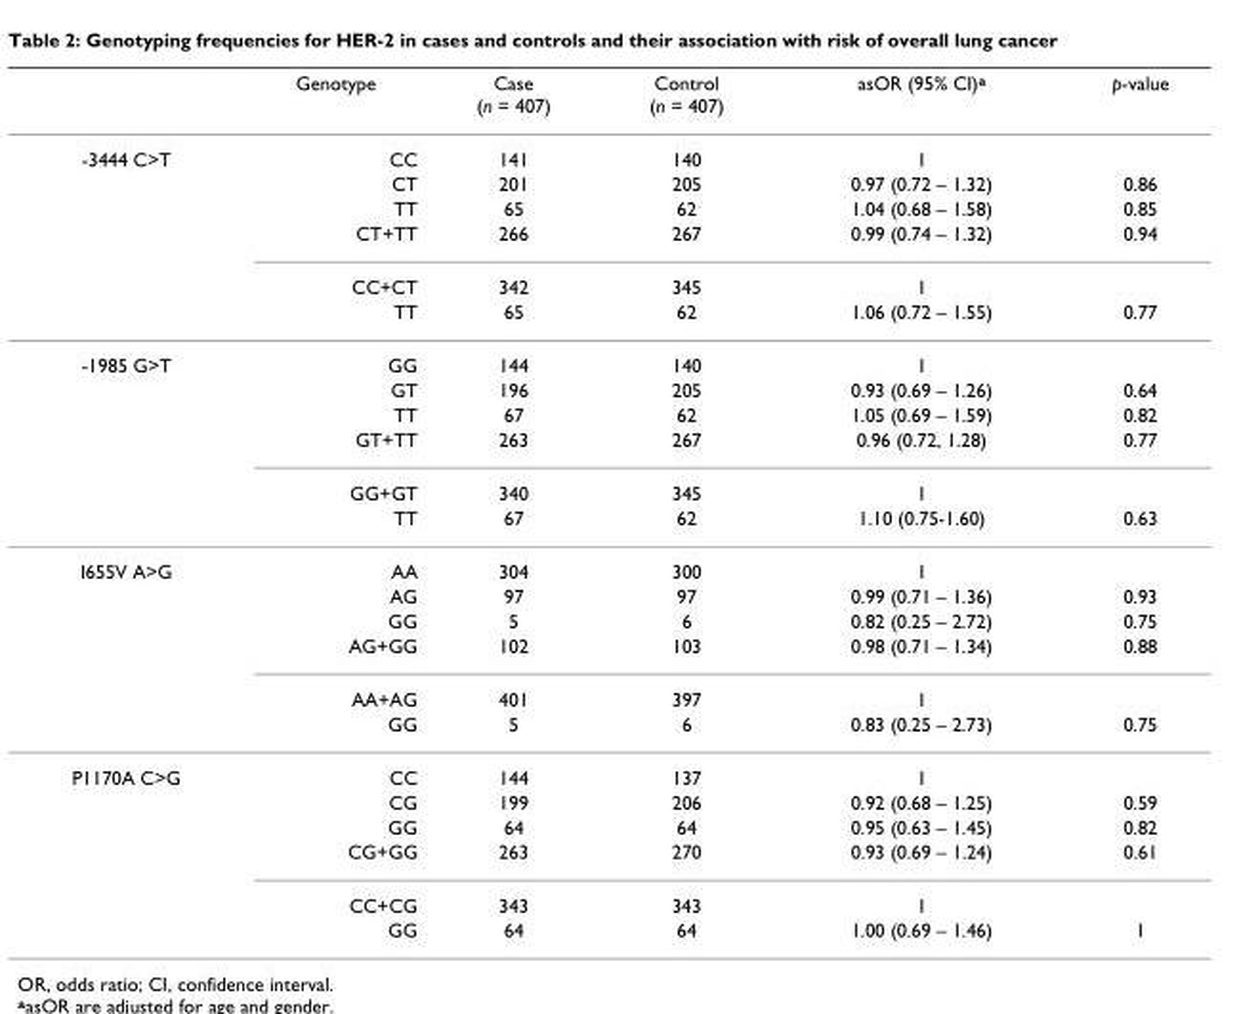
<table><thead><tr><td></td><td>Genotype</td><td>Case (n = 407)</td><td>Control (n = 407)</td><td>asOR (95% CI)<sup>a</sup></td><td>p-value</td></tr></thead><tbody><tr><td rowspan="6">-3444 C&gt;T</td><td>CC</td><td>141</td><td>140</td><td>1</td><td></td></tr><tr><td>CT</td><td>201</td><td>205</td><td>0.97 (0.72 – 1.32)</td><td>0.86</td></tr><tr><td>TT</td><td>65</td><td>62</td><td>1.04 (0.68 – 1.58)</td><td>0.85</td></tr><tr><td>CT+TT</td><td>266</td><td>267</td><td>0.99 (0.74 – 1.32)</td><td>0.94</td></tr><tr><td>CC+CT</td><td>342</td><td>345</td><td>1</td><td></td></tr><tr><td>TT</td><td>65</td><td>62</td><td>1.06 (0.72 – 1.55)</td><td>0.77</td></tr><tr><td rowspan="6">-1985 G&gt;T</td><td>GG</td><td>144</td><td>140</td><td>1</td><td></td></tr><tr><td>GT</td><td>196</td><td>205</td><td>0.93 (0.69 – 1.26)</td><td>0.64</td></tr><tr><td>TT</td><td>67</td><td>62</td><td>1.05 (0.69 – 1.59)</td><td>0.82</td></tr><tr><td>GT+TT</td><td>263</td><td>267</td><td>0.96 (0.72, 1.28)</td><td>0.77</td></tr><tr><td>GG+GT</td><td>340</td><td>345</td><td>1</td><td></td></tr><tr><td>TT</td><td>67</td><td>62</td><td>1.10 (0.75-1.60)</td><td>0.63</td></tr><tr><td rowspan="6">I655V A&gt;G</td><td>AA</td><td>304</td><td>300</td><td>1</td><td></td></tr><tr><td>AG</td><td>97</td><td>97</td><td>0.99 (0.71 – 1.36)</td><td>0.93</td></tr><tr><td>GG</td><td>5</td><td>6</td><td>0.82 (0.25 – 2.72)</td><td>0.75</td></tr><tr><td>AG+GG</td><td>102</td><td>103</td><td>0.98 (0.71 – 1.34)</td><td>0.88</td></tr><tr><td>AA+AG</td><td>401</td><td>397</td><td>1</td><td></td></tr><tr><td>GG</td><td>5</td><td>6</td><td>0.83 (0.25 – 2.73)</td><td>0.75</td></tr><tr><td rowspan="6">P1170A C&gt;G</td><td>CC</td><td>144</td><td>137</td><td>1</td><td></td></tr><tr><td>CG</td><td>199</td><td>206</td><td>0.92 (0.68 – 1.25)</td><td>0.59</td></tr><tr><td>GG</td><td>64</td><td>64</td><td>0.95 (0.63 – 1.45)</td><td>0.82</td></tr><tr><td>CG+GG</td><td>263</td><td>270</td><td>0.93 (0.69 – 1.24)</td><td>0.61</td></tr><tr><td>CC+CG</td><td>343</td><td>343</td><td>1</td><td></td></tr><tr><td>GG</td><td>64</td><td>64</td><td>1.00 (0.69 – 1.46)</td><td>1</td></tr></tbody></table>